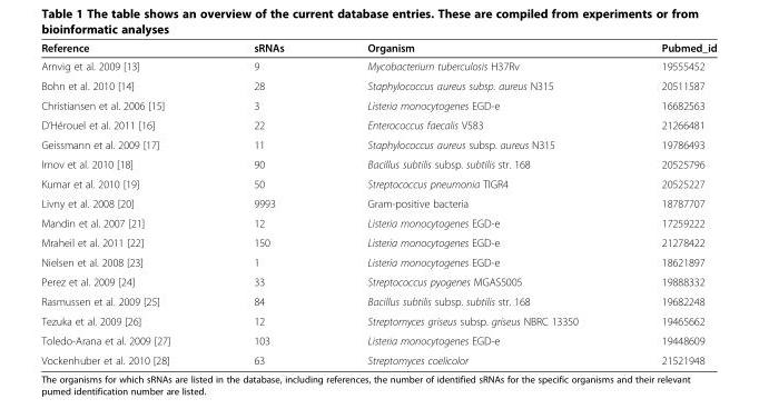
<table><thead><tr><td>Reference</td><td>sRNAs</td><td>Organism</td><td>Pubmed_id</td></tr></thead><tbody><tr><td>Arnvig et al. 2009 [13]</td><td>9</td><td>Mycobacterium tuberculosis H37Rv</td><td>19555452</td></tr><tr><td>Bohn et al. 2010 [14]</td><td>28</td><td>Staphylococcus aureus subsp. aureus N315</td><td>20511587</td></tr><tr><td>Christiansen et al. 2006 [15]</td><td>3</td><td>Listeria monocytogenes EGD-e</td><td>16682563</td></tr><tr><td>D’Hérouel et al. 2011 [16]</td><td>22</td><td>Enterococcus faecalis V583</td><td>21266481</td></tr><tr><td>Geissmann et al. 2009 [17]</td><td>11</td><td>Staphylococcus aureus subsp. aureus N315</td><td>19786493</td></tr><tr><td>Irnov et al. 2010 [18]</td><td>90</td><td>Bacillus subtilis subsp. subtilis str. 168</td><td>20525796</td></tr><tr><td>Kumar et al. 2010 [19]</td><td>50</td><td>Streptococcus pneumonia TIGR4</td><td>20525227</td></tr><tr><td>Livny et al. 2008 [20]</td><td>9993</td><td>Gram-positive bacteria</td><td>18787707</td></tr><tr><td>Mandin et al. 2007 [21]</td><td>12</td><td>Listeria monocytogenes EGD-e</td><td>17259222</td></tr><tr><td>Mraheil et al. 2011 [22]</td><td>150</td><td>Listeria monocytogenes EGD-e</td><td>21278422</td></tr><tr><td>Nielsen et al. 2008 [23]</td><td>1</td><td>Listeria monocytogenes EGD-e</td><td>18621897</td></tr><tr><td>Perez et al. 2009 [24]</td><td>33</td><td>Streptococcus pyogenes MGAS5005</td><td>19888332</td></tr><tr><td>Rasmussen et al. 2009 [25]</td><td>84</td><td>Bacillus subtilis subsp. subtilis str. 168</td><td>19682248</td></tr><tr><td>Tezuka et al. 2009 [26]</td><td>12</td><td>Streptomyces griseus subsp. griseus NBRC 13350</td><td>19465662</td></tr><tr><td>Toledo-Arana et al. 2009 [27]</td><td>103</td><td>Listeria monocytogenes EGD-e</td><td>19448609</td></tr><tr><td>Vockenhuber et al. 2010 [28]</td><td>63</td><td>Streptomyces coelicolor</td><td>21521948</td></tr></tbody></table>